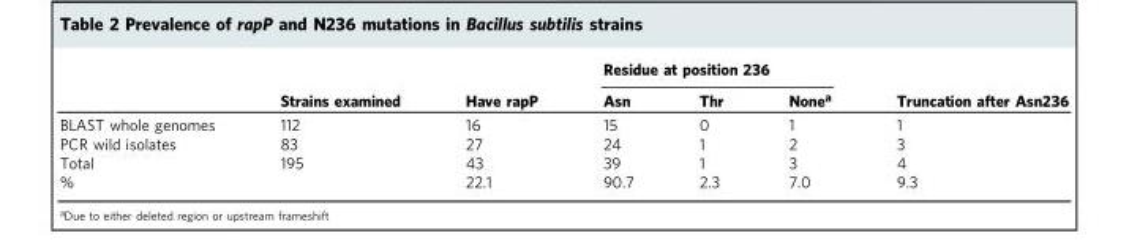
<table><thead><tr><td rowspan="2"></td><td rowspan="2">Strains examined</td><td rowspan="2">Have rapP</td><td colspan="3">Residue at position 236</td><td rowspan="2">Truncation after Asn236</td></tr><tr><td>Asn</td><td>Thr</td><td>None<sup>a</sup></td></tr></thead><tbody><tr><td>BLAST whole genomes</td><td>112</td><td>16</td><td>15</td><td>0</td><td>1</td><td>1</td></tr><tr><td>PCR wild isolates</td><td>83</td><td>27</td><td>24</td><td>1</td><td>2</td><td>3</td></tr><tr><td>Total</td><td>195</td><td>43</td><td>39</td><td>1</td><td>3</td><td>4</td></tr><tr><td>%</td><td></td><td>22.1</td><td>90.7</td><td>2.3</td><td>7.0</td><td>9.3</td></tr></tbody></table>